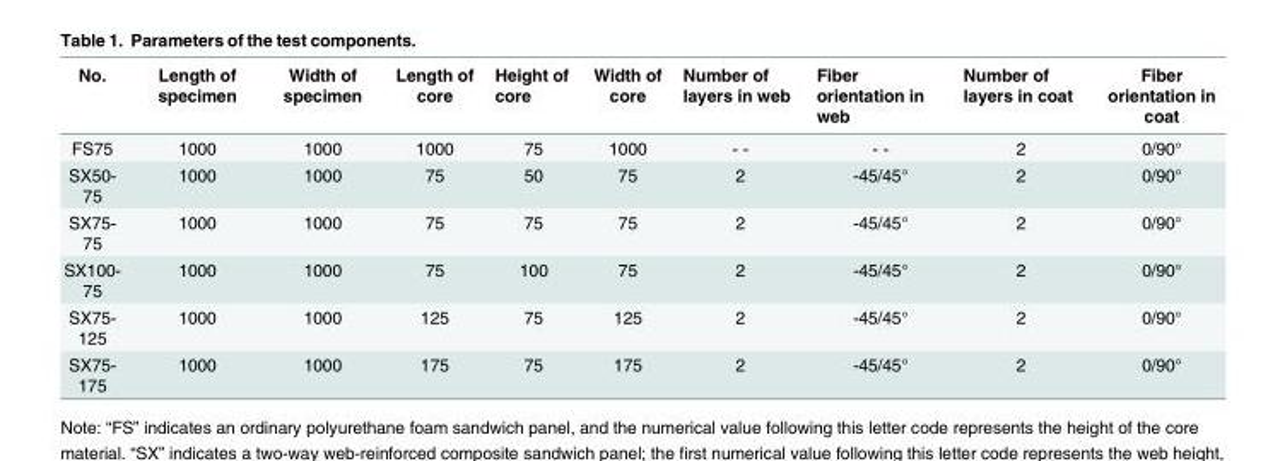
<table><thead><tr><td>No.</td><td>Length of specimen</td><td>Width of specimen</td><td>Length of core</td><td>Height of core</td><td>Width of core</td><td>Number of layers in web</td><td>Fiber orientation in web</td><td>Number of layers in coat</td><td>Fiber orientation in coat</td></tr></thead><tbody><tr><td>FS75</td><td>1000</td><td>1000</td><td>1000</td><td>75</td><td>1000</td><td>- -</td><td>- -</td><td>2</td><td>0/90°</td></tr><tr><td>SX50- 75</td><td>1000</td><td>1000</td><td>75</td><td>50</td><td>75</td><td>2</td><td>-45/45°</td><td>2</td><td>0/90°</td></tr><tr><td>SX75- 75</td><td>1000</td><td>1000</td><td>75</td><td>75</td><td>75</td><td>2</td><td>-45/45°</td><td>2</td><td>0/90°</td></tr><tr><td>SX100- 75</td><td>1000</td><td>1000</td><td>75</td><td>100</td><td>75</td><td>2</td><td>-45/45°</td><td>2</td><td>0/90°</td></tr><tr><td>SX75- 125</td><td>1000</td><td>1000</td><td>125</td><td>75</td><td>125</td><td>2</td><td>-45/45°</td><td>2</td><td>0/90°</td></tr><tr><td>SX75- 175</td><td>1000</td><td>1000</td><td>175</td><td>75</td><td>175</td><td>2</td><td>-45/45°</td><td>2</td><td>0/90°</td></tr></tbody></table>